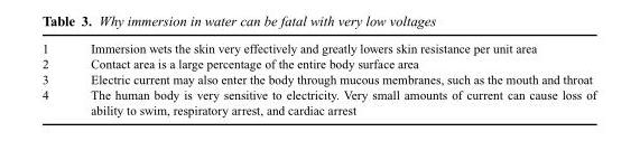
<table><tbody><tr><td>1</td><td>Immersion wets the skin very effectively and greatly lowers skin resistance per unit area</td></tr><tr><td>2</td><td>Contact area is a large percentage of the entire body surface area</td></tr><tr><td>3</td><td>Electric current may also enter the body through mucous membranes, such as the mouth and throat</td></tr><tr><td>4</td><td>The human body is very sensitive to electricity. Very small amounts of current can cause loss of ability to swim, respiratory arrest, and cardiac arrest</td></tr></tbody></table>